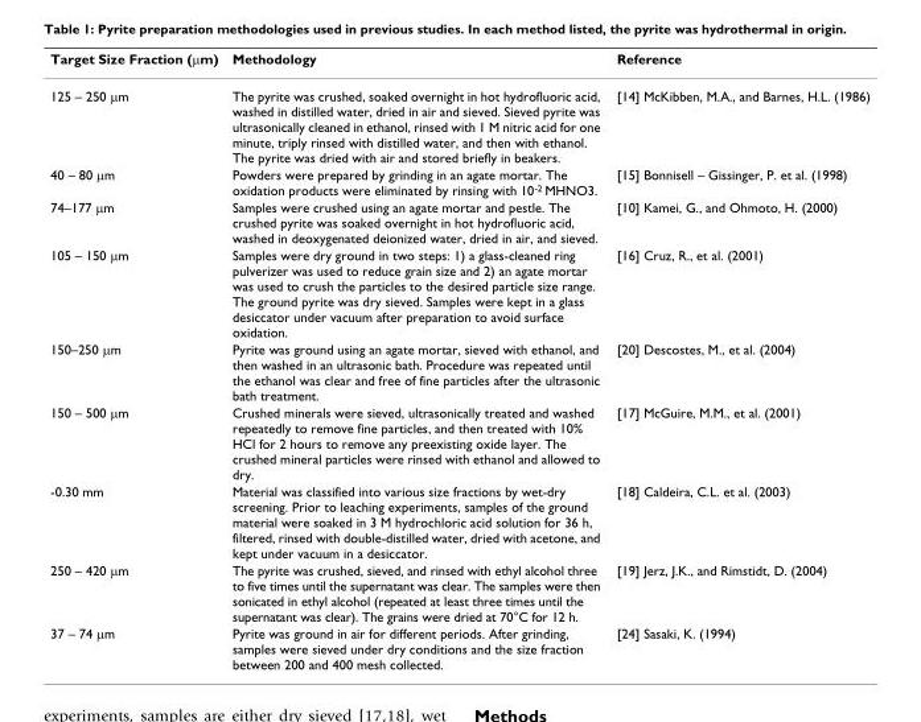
<table><thead><tr><td>Target Size Fraction (μm)</td><td>Methodology</td><td>Reference</td></tr></thead><tbody><tr><td>125 – 250 μm</td><td>The pyrite was crushed, soaked overnight in hot hydrofluoric acid, washed in distilled water, dried in air and sieved. Sieved pyrite was ultrasonically cleaned in ethanol, rinsed with 1 M nitric acid for one minute, triply rinsed with distilled water, and then with ethanol. The pyrite was dried with air and stored briefly in beakers.</td><td>[14] McKibben, M.A., and Barnes, H.L. (1986)</td></tr><tr><td>40 – 80 μm</td><td>Powders were prepared by grinding in an agate mortar. The oxidation products were eliminated by rinsing with 10<sup>-2</sup> MHNO3.</td><td>[15] Bonnisell – Gissinger, P. et al. (1998)</td></tr><tr><td>74–177 μm</td><td>Samples were crushed using an agate mortar and pestle. The crushed pyrite was soaked overnight in hot hydrofluoric acid, washed in deoxygenated deionized water, dried in air, and sieved.</td><td>[10] Kamei, G., and Ohmoto, H. (2000)</td></tr><tr><td>105 – 150 μm</td><td>Samples were dry ground in two steps: 1) a glass-cleaned ring pulverizer was used to reduce grain size and 2) an agate mortar was used to crush the particles to the desired particle size range. The ground pyrite was dry sieved. Samples were kept in a glass desiccator under vacuum after preparation to avoid surface oxidation.</td><td>[16] Cruz, R., et al. (2001)</td></tr><tr><td>150–250 μm</td><td>Pyrite was ground using an agate mortar, sieved with ethanol, and then washed in an ultrasonic bath. Procedure was repeated until the ethanol was clear and free of fine particles after the ultrasonic bath treatment.</td><td>[20] Descostes, M., et al. (2004)</td></tr><tr><td>150 – 500 μm</td><td>Crushed minerals were sieved, ultrasonically treated and washed repeatedly to remove fine particles, and then treated with 10% HCl for 2 hours to remove any preexisting oxide layer. The crushed mineral particles were rinsed with ethanol and allowed to dry.</td><td>[17] McGuire, M.M., et al. (2001)</td></tr><tr><td>-0.30 mm</td><td>Material was classified into various size fractions by wet-dry screening. Prior to leaching experiments, samples of the ground material were soaked in 3 M hydrochloric acid solution for 36 h, filtered, rinsed with double-distilled water, dried with acetone, and kept under vacuum in a desiccator.</td><td>[18] Caldeira, C.L. et al. (2003)</td></tr><tr><td>250 – 420 μm</td><td>The pyrite was crushed, sieved, and rinsed with ethyl alcohol three to five times until the supernatant was clear. The samples were then sonicated in ethyl alcohol (repeated at least three times until the supernatant was clear). The grains were dried at 70°C for 12 h.</td><td>[19] Jerz, J.K., and Rimstidt, D. (2004)</td></tr><tr><td>37 – 74 μm</td><td>Pyrite was ground in air for different periods. After grinding, samples were sieved under dry conditions and the size fraction between 200 and 400 mesh collected.</td><td>[24] Sasaki, K. (1994)</td></tr></tbody></table>